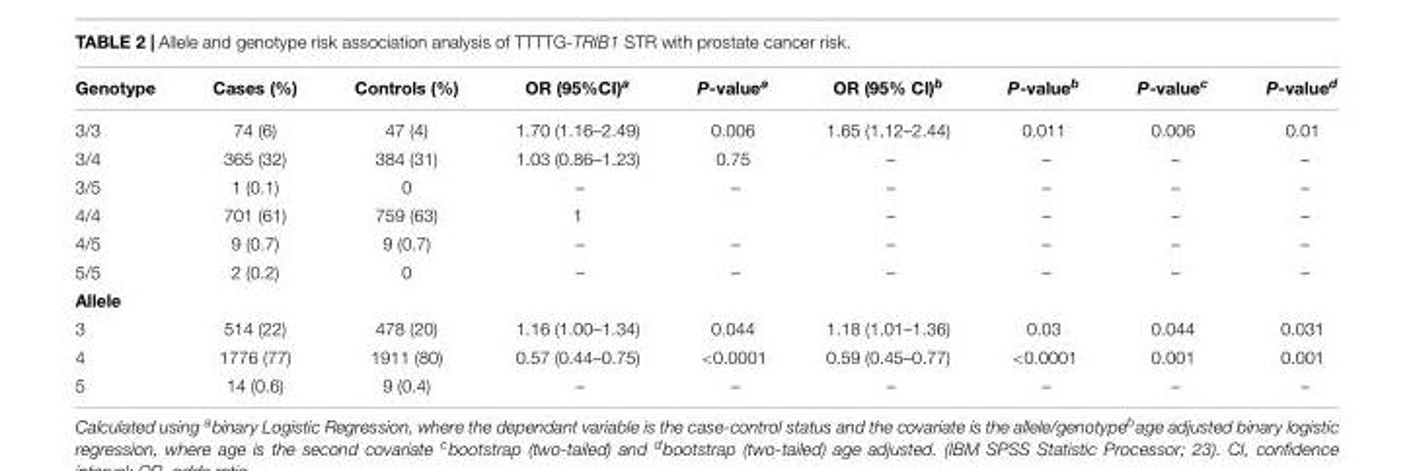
<table><thead><tr><td>Genotype</td><td>Cases (%)</td><td>Controls (%)</td><td>OR (95%CI)<sup>a</sup></td><td>P-value<sup>a</sup></td><td>OR (95% CI)<sup>b</sup></td><td>P-value<sup>b</sup></td><td>P-value<sup>c</sup></td><td>P-value<sup>d</sup></td></tr></thead><tbody><tr><td>3/3</td><td>74 (6)</td><td>47 (4)</td><td>1.70 (1.16–2.49)</td><td>0.006</td><td>1.65 (1.12–2.44)</td><td>0.011</td><td>0.006</td><td>0.01</td></tr><tr><td>3/4</td><td>365 (32)</td><td>384 (31)</td><td>1.03 (0.86–1.23)</td><td>0.75</td><td>–</td><td>–</td><td>–</td><td>–</td></tr><tr><td>3/5</td><td>1 (0.1)</td><td>0</td><td>–</td><td>–</td><td>–</td><td>–</td><td>–</td><td>–</td></tr><tr><td>4/4</td><td>701 (61)</td><td>759 (63)</td><td>1</td><td></td><td>–</td><td>–</td><td>–</td><td>–</td></tr><tr><td>4/5</td><td>9 (0.7)</td><td>9 (0.7)</td><td>–</td><td>–</td><td>–</td><td>–</td><td>–</td><td>–</td></tr><tr><td>5/5</td><td>2 (0.2)</td><td>0</td><td>–</td><td>–</td><td>–</td><td>–</td><td>–</td><td>–</td></tr><tr><td colspan="9">Allele</td></tr><tr><td>3</td><td>514 (22)</td><td>478 (20)</td><td>1.16 (1.00–1.34)</td><td>0.044</td><td>1.18 (1.01–1.36)</td><td>0.03</td><td>0.044</td><td>0.031</td></tr><tr><td>4</td><td>1776 (77)</td><td>1911 (80)</td><td>0.57 (0.44–0.75)</td><td>&lt;0.0001</td><td>0.59 (0.45–0.77)</td><td>&lt;0.0001</td><td>0.001</td><td>0.001</td></tr><tr><td>5</td><td>14 (0.6)</td><td>9 (0.4)</td><td>–</td><td>–</td><td>–</td><td>–</td><td>–</td><td>–</td></tr></tbody></table>